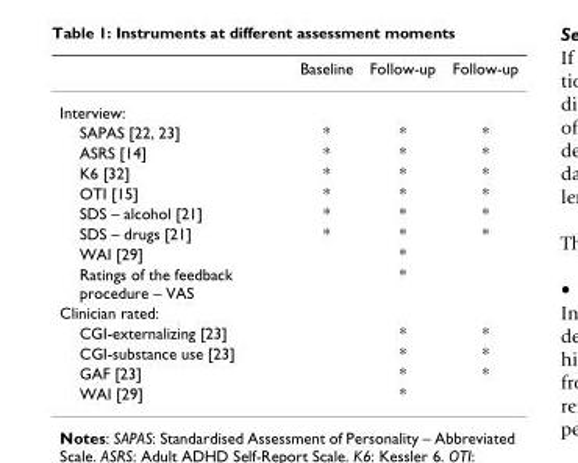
<table><thead><tr><td></td><td>Baseline</td><td>Follow-up</td><td>Follow-up</td></tr></thead><tbody><tr><td colspan="4">Interview:</td></tr><tr><td>SAPAS [22, 23]</td><td>*</td><td>*</td><td>*</td></tr><tr><td>ASRS [14]</td><td>*</td><td>*</td><td>*</td></tr><tr><td>K6 [32]</td><td>*</td><td>*</td><td>*</td></tr><tr><td>OTI [15]</td><td>*</td><td>*</td><td>*</td></tr><tr><td>SDS – alcohol [21]</td><td>*</td><td>*</td><td>*</td></tr><tr><td>SDS – drugs [21]</td><td>*</td><td>*</td><td>*</td></tr><tr><td>WAI [29]</td><td></td><td>*</td><td></td></tr><tr><td>Ratings of the feedback procedure – VAS</td><td></td><td>*</td><td></td></tr><tr><td colspan="4">Clinician rated:</td></tr><tr><td>CGI-externalizing [23]</td><td></td><td>*</td><td>*</td></tr><tr><td>CGI-substance use [23]</td><td></td><td>*</td><td>*</td></tr><tr><td>GAF [23]</td><td></td><td>*</td><td>*</td></tr><tr><td>WAI [29]</td><td></td><td>*</td><td></td></tr></tbody></table>